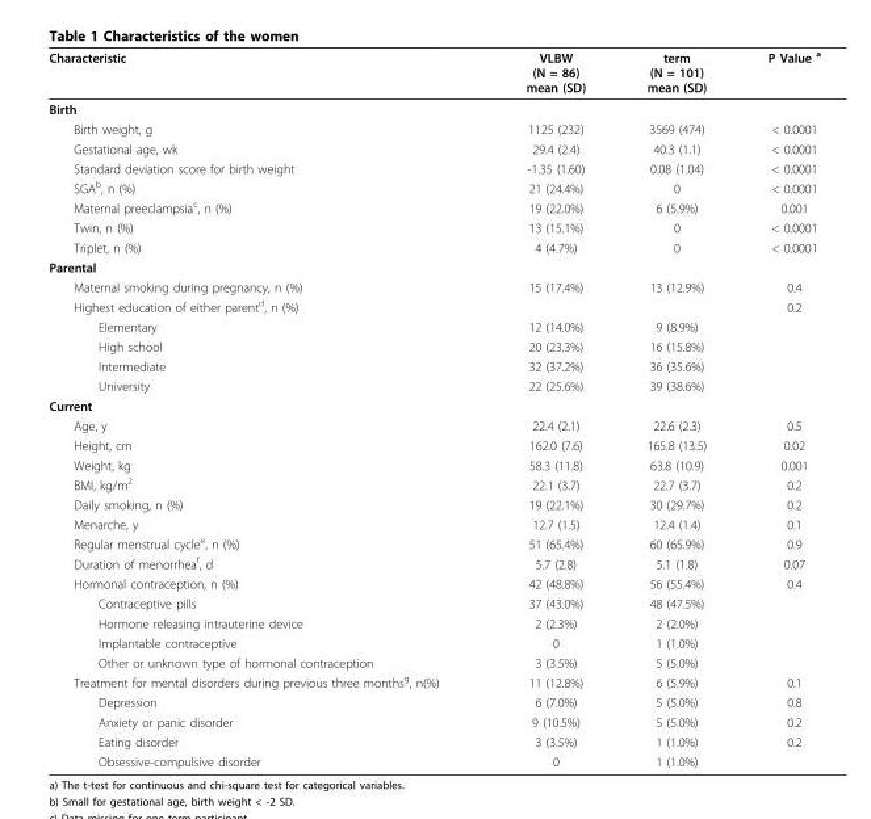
<table><thead><tr><td>Characteristic</td><td>VLBW (N = 86) mean (SD)</td><td>term (N = 101) mean (SD)</td><td>P Value <sup>a</sup></td></tr></thead><tbody><tr><td colspan="4">Birth</td></tr><tr><td>Birth weight, g</td><td>1125 (232)</td><td>3569 (474)</td><td>&lt; 0.0001</td></tr><tr><td>Gestational age, wk</td><td>29.4 (2.4)</td><td>40.3 (1.1)</td><td>&lt; 0.0001</td></tr><tr><td>Standard deviation score for birth weight</td><td>-1.35 (1.60)</td><td>0.08 (1.04)</td><td>&lt; 0.0001</td></tr><tr><td>SGA<sup>b</sup>, n (%)</td><td>21 (24.4%)</td><td>0</td><td>&lt; 0.0001</td></tr><tr><td>Maternal preeclampsia<sup>c</sup>, n (%)</td><td>19 (22.0%)</td><td>6 (5.9%)</td><td>0.001</td></tr><tr><td>Twin, n (%)</td><td>13 (15.1%)</td><td>0</td><td>&lt; 0.0001</td></tr><tr><td>Triplet, n (%)</td><td>4 (4.7%)</td><td>0</td><td>&lt; 0.0001</td></tr><tr><td colspan="4">Parental</td></tr><tr><td>Maternal smoking during pregnancy, n (%)</td><td>15 (17.4%)</td><td>13 (12.9%)</td><td>0.4</td></tr><tr><td>Highest education of either parent<sup>d</sup>, n (%)</td><td></td><td></td><td>0.2</td></tr><tr><td>Elementary</td><td>12 (14.0%)</td><td>9 (8.9%)</td><td></td></tr><tr><td>High school</td><td>20 (23.3%)</td><td>16 (15.8%)</td><td></td></tr><tr><td>Intermediate</td><td>32 (37.2%)</td><td>36 (35.6%)</td><td></td></tr><tr><td>University</td><td>22 (25.6%)</td><td>39 (38.6%)</td><td></td></tr><tr><td colspan="4">Current</td></tr><tr><td>Age, y</td><td>22.4 (2.1)</td><td>22.6 (2.3)</td><td>0.5</td></tr><tr><td>Height, cm</td><td>162.0 (7.6)</td><td>165.8 (13.5)</td><td>0.02</td></tr><tr><td>Weight, kg</td><td>58.3 (11.8)</td><td>63.8 (10.9)</td><td>0.001</td></tr><tr><td>BMI, kg/m<sup>2</sup></td><td>22.1 (3.7)</td><td>22.7 (3.7)</td><td>0.2</td></tr><tr><td>Daily smoking, n (%)</td><td>19 (22.1%)</td><td>30 (29.7%)</td><td>0.2</td></tr><tr><td>Menarche, y</td><td>12.7 (1.5)</td><td>12.4 (1.4)</td><td>0.1</td></tr><tr><td>Regular menstrual cycle<sup>e</sup>, n (%)</td><td>51 (65.4%)</td><td>60 (65.9%)</td><td>0.9</td></tr><tr><td>Duration of menorrhea<sup>f</sup>, d</td><td>5.7 (2.8)</td><td>5.1 (1.8)</td><td>0.07</td></tr><tr><td>Hormonal contraception, n (%)</td><td>42 (48.8%)</td><td>56 (55.4%)</td><td>0.4</td></tr><tr><td>Contraceptive pills</td><td>37 (43.0%)</td><td>48 (47.5%)</td><td></td></tr><tr><td>Hormone releasing intrauterine device</td><td>2 (2.3%)</td><td>2 (2.0%)</td><td></td></tr><tr><td>Implantable contraceptive</td><td>0</td><td>1 (1.0%)</td><td></td></tr><tr><td>Other or unknown type of hormonal contraception</td><td>3 (3.5%)</td><td>5 (5.0%)</td><td></td></tr><tr><td>Treatment for mental disorders during previous three months<sup>g</sup>, n(%)</td><td>11 (12.8%)</td><td>6 (5.9%)</td><td>0.1</td></tr><tr><td>Depression</td><td>6 (7.0%)</td><td>5 (5.0%)</td><td>0.8</td></tr><tr><td>Anxiety or panic disorder</td><td>9 (10.5%)</td><td>5 (5.0%)</td><td>0.2</td></tr><tr><td>Eating disorder</td><td>3 (3.5%)</td><td>1 (1.0%)</td><td>0.2</td></tr><tr><td>Obsessive-compulsive disorder</td><td>0</td><td>1 (1.0%)</td><td></td></tr></tbody></table>